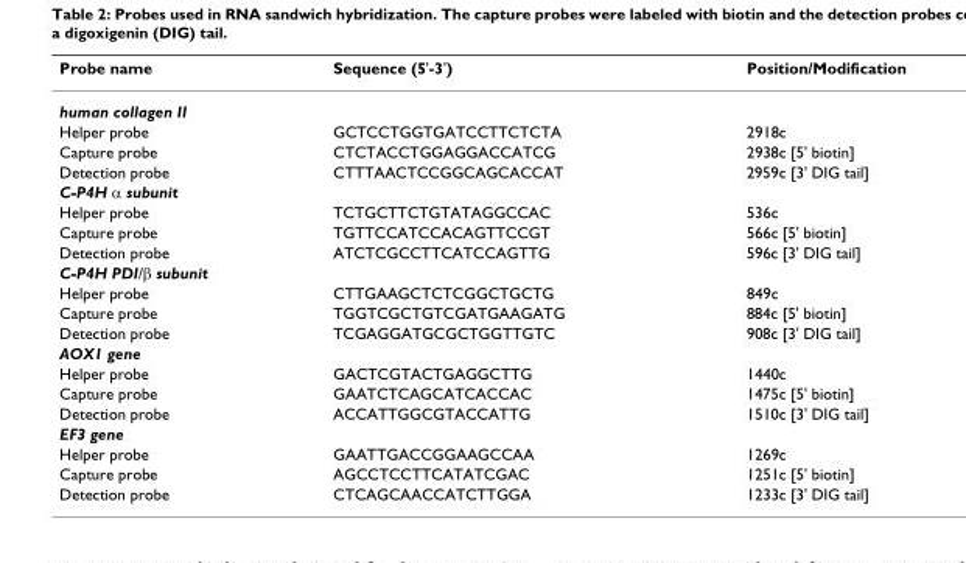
<table><thead><tr><td>Probe name</td><td>Sequence (5&#x27;-3&#x27;)</td><td>Position/Modification</td></tr></thead><tbody><tr><td colspan="3">human collagen II</td></tr><tr><td>Helper probe</td><td>GCTCCTGGTGATCCTTCTCTA</td><td>2918c</td></tr><tr><td>Capture probe</td><td>CTCTACCTGGAGGACCATCG</td><td>2938c [5&#x27; biotin]</td></tr><tr><td>Detection probe</td><td>CTTTAACTCCGGCAGCACCAT</td><td>2959c [3&#x27; DIG tail]</td></tr><tr><td colspan="3">C-P4H α subunit</td></tr><tr><td>Helper probe</td><td>TCTGCTTCTGTATAGGCCAC</td><td>536c</td></tr><tr><td>Capture probe</td><td>TGTTCCATCCACAGTTCCGT</td><td>566c [5&#x27; biotin]</td></tr><tr><td>Detection probe</td><td>ATCTCGCCTTCATCCAGTTG</td><td>596c [3&#x27; DIG tail]</td></tr><tr><td colspan="3">C-P4H PDI/β subunit</td></tr><tr><td>Helper probe</td><td>CTTGAAGCTCTCGGCTGCTG</td><td>849c</td></tr><tr><td>Capture probe</td><td>TGGTCGCTGTCGATGAAGATG</td><td>884c [5&#x27; biotin]</td></tr><tr><td>Detection probe</td><td>TCGAGGATGCGCTGGTTGTC</td><td>908c [3&#x27; DIG tail]</td></tr><tr><td colspan="3">AOX1 gene</td></tr><tr><td>Helper probe</td><td>GACTCGTACTGAGGCTTG</td><td>1440c</td></tr><tr><td>Capture probe</td><td>GAATCTCAGCATCACCAC</td><td>1475c [5&#x27; biotin]</td></tr><tr><td>Detection probe</td><td>ACCATTGGCGTACCATTG</td><td>1510c [3&#x27; DIG tail]</td></tr><tr><td colspan="3">EF3 gene</td></tr><tr><td>Helper probe</td><td>GAATTGACCGGAAGCCAA</td><td>1269c</td></tr><tr><td>Capture probe</td><td>AGCCTCCTTCATATCGAC</td><td>1251c [5&#x27; biotin]</td></tr><tr><td>Detection probe</td><td>CTCAGCAACCATCTTGGA</td><td>1233c [3&#x27; DIG tail]</td></tr></tbody></table>